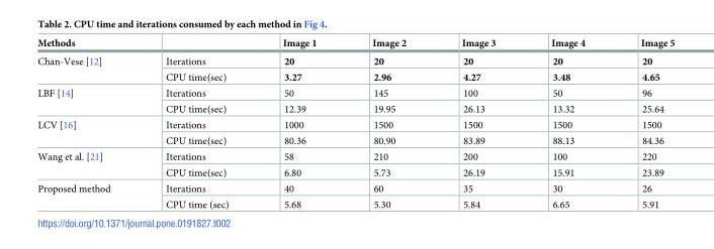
<table><thead><tr><td>Methods</td><td></td><td>Image 1</td><td>Image 2</td><td>Image 3</td><td>Image 4</td><td>Image 5</td></tr></thead><tbody><tr><td rowspan="2">Chan-Vese [12]</td><td>Iterations</td><td>20</td><td>20</td><td>20</td><td>20</td><td>20</td></tr><tr><td>CPU time(sec)</td><td>3.27</td><td>2.96</td><td>4.27</td><td>3.48</td><td>4.65</td></tr><tr><td rowspan="2">LBF [14]</td><td>Iterations</td><td>50</td><td>145</td><td>100</td><td>50</td><td>96</td></tr><tr><td>CPU time(sec)</td><td>12.39</td><td>19.95</td><td>26.13</td><td>13.32</td><td>25.64</td></tr><tr><td rowspan="2">LCV [16]</td><td>Iterations</td><td>1000</td><td>1500</td><td>1500</td><td>1500</td><td>1500</td></tr><tr><td>CPU time(sec)</td><td>80.36</td><td>80.90</td><td>83.89</td><td>88.13</td><td>84.36</td></tr><tr><td rowspan="2">Wang et al. [21]</td><td>Iterations</td><td>58</td><td>210</td><td>200</td><td>100</td><td>220</td></tr><tr><td>CPU time(sec)</td><td>6.80</td><td>5.73</td><td>26.19</td><td>15.91</td><td>23.89</td></tr><tr><td rowspan="2">Proposed method</td><td>Iterations</td><td>40</td><td>60</td><td>35</td><td>30</td><td>26</td></tr><tr><td>CPU time (sec)</td><td>5.68</td><td>5.30</td><td>5.84</td><td>6.65</td><td>5.91</td></tr></tbody></table>